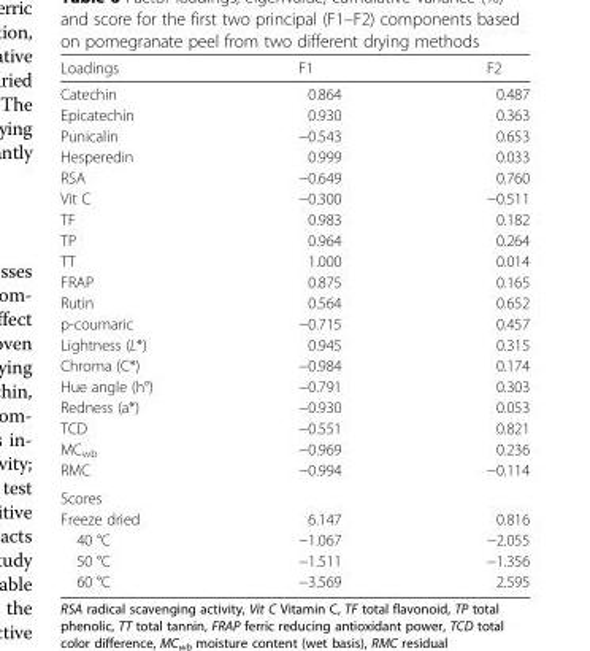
<table><thead><tr><td>Loadings</td><td>F1</td><td>F2</td></tr></thead><tbody><tr><td>Catechin</td><td>0.864</td><td>0.487</td></tr><tr><td>Epicatechin</td><td>0.930</td><td>0.363</td></tr><tr><td>Punicalin</td><td>−0.543</td><td>0.653</td></tr><tr><td>Hesperedin</td><td>0.999</td><td>0.033</td></tr><tr><td>RSA</td><td>−0.649</td><td>0.760</td></tr><tr><td>Vit C</td><td>−0.300</td><td>−0.511</td></tr><tr><td>TF</td><td>0.983</td><td>0.182</td></tr><tr><td>TP</td><td>0.964</td><td>0.264</td></tr><tr><td>TT</td><td>1.000</td><td>0.014</td></tr><tr><td>FRAP</td><td>0.875</td><td>0.165</td></tr><tr><td>Rutin</td><td>0.564</td><td>0.652</td></tr><tr><td>p-coumaric</td><td>−0.715</td><td>0.457</td></tr><tr><td>Lightness (L*)</td><td>0.945</td><td>0.315</td></tr><tr><td>Chroma (C*)</td><td>−0.984</td><td>0.174</td></tr><tr><td>Hue angle (h°)</td><td>−0.791</td><td>0.303</td></tr><tr><td>Redness (a*)</td><td>−0.930</td><td>0.053</td></tr><tr><td>TCD</td><td>−0.551</td><td>0.821</td></tr><tr><td>MC<sub>wb</sub></td><td>−0.969</td><td>0.236</td></tr><tr><td>RMC</td><td>−0.994</td><td>−0.114</td></tr><tr><td colspan="3">Scores</td></tr><tr><td>Freeze dried</td><td>6.147</td><td>0.816</td></tr><tr><td>40 °C</td><td>−1.067</td><td>−2.055</td></tr><tr><td>50 °C</td><td>−1.511</td><td>−1.356</td></tr><tr><td>60 °C</td><td>−3.569</td><td>2.595</td></tr></tbody></table>